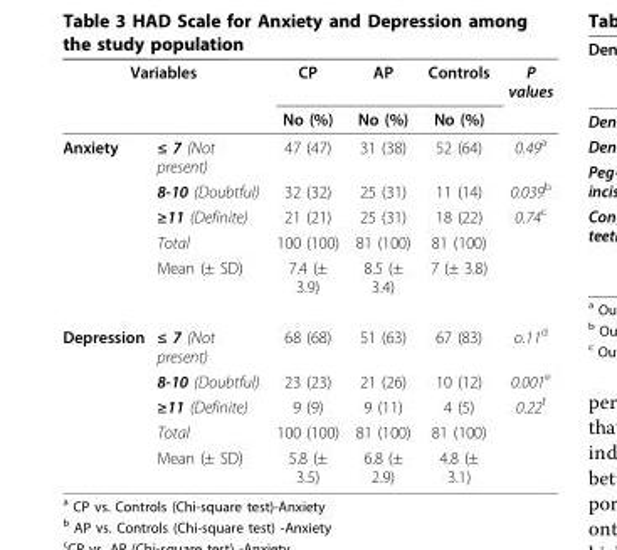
<table><thead><tr><td colspan="2">Variables</td><td rowspan="2">CP No (%)</td><td rowspan="2">AP No (%)</td><td rowspan="2">Controls No (%)</td><td rowspan="2">P values</td></tr><tr><td></td><td></td></tr></thead><tbody><tr><td rowspan="5">Anxiety</td><td>≤ 7 (Not present)</td><td>47 (47)</td><td>31 (38)</td><td>52 (64)</td><td>0.49<sup>a</sup></td></tr><tr><td>8-10 (Doubtful)</td><td>32 (32)</td><td>25 (31)</td><td>11 (14)</td><td>0.039<sup>b</sup></td></tr><tr><td>≥11 (Definite)</td><td>21 (21)</td><td>25 (31)</td><td>18 (22)</td><td>0.74<sup>c</sup></td></tr><tr><td>Total</td><td>100 (100)</td><td>81 (100)</td><td>81 (100)</td><td></td></tr><tr><td>Mean (± SD)</td><td>7.4 (± 3.9)</td><td>8.5 (± 3.4)</td><td>7 (± 3.8)</td><td></td></tr><tr><td rowspan="5">Depression</td><td>≤ 7 (Not present)</td><td>68 (68)</td><td>51 (63)</td><td>67 (83)</td><td>o.11<sup>d</sup></td></tr><tr><td>8-10 (Doubtful)</td><td>23 (23)</td><td>21 (26)</td><td>10 (12)</td><td>0.001<sup>e</sup></td></tr><tr><td>≥11 (Definite)</td><td>9 (9)</td><td>9 (11)</td><td>4 (5)</td><td>0.22<sup>f</sup></td></tr><tr><td>Total</td><td>100 (100)</td><td>81 (100)</td><td>81 (100)</td><td></td></tr><tr><td>Mean (± SD)</td><td>5.8 (± 3.5)</td><td>6.8 (± 2.9)</td><td>4.8 (± 3.1)</td><td></td></tr></tbody></table>